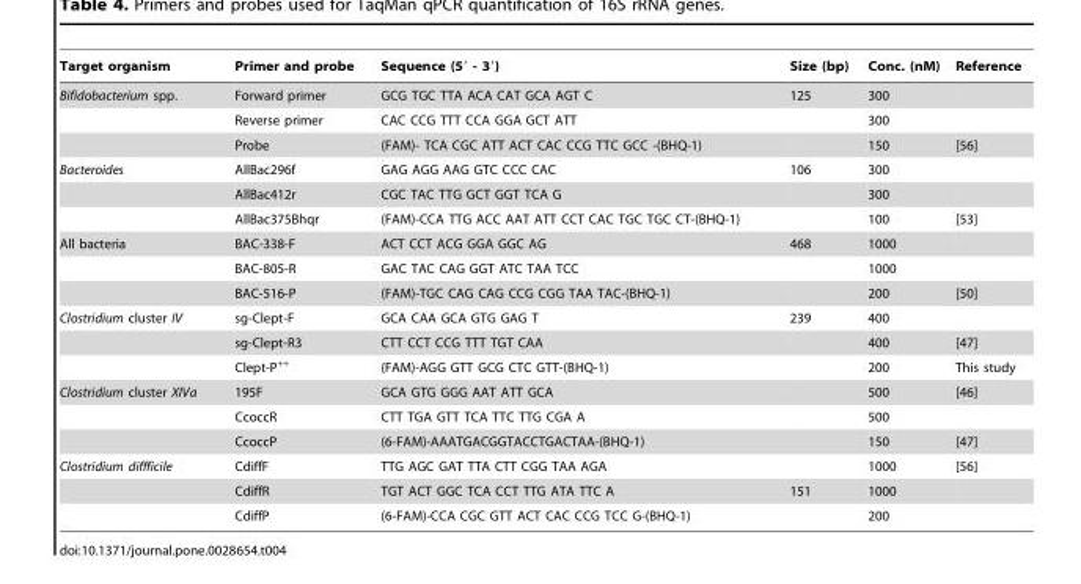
<table><thead><tr><td>Target organism</td><td>Primer and probe</td><td>Sequence (5′ - 3′)</td><td>Size (bp)</td><td>Conc. (nM)</td><td>Reference</td></tr></thead><tbody><tr><td rowspan="3">Bifidobacterium spp.</td><td>Forward primer</td><td>GCG TGC TTA ACA CAT GCA AGT C</td><td>125</td><td>300</td><td></td></tr><tr><td>Reverse primer</td><td>CAC CCG TTT CCA GGA GCT ATT</td><td></td><td>300</td><td></td></tr><tr><td>Probe</td><td>(FAM)- TCA CGC ATT ACT CAC CCG TTC GCC -(BHQ-1)</td><td></td><td>150</td><td>[56]</td></tr><tr><td rowspan="3">Bacteroides</td><td>AllBac296f</td><td>GAG AGG AAG GTC CCC CAC</td><td>106</td><td>300</td><td></td></tr><tr><td>AllBac412r</td><td>CGC TAC TTG GCT GGT TCA G</td><td></td><td>300</td><td></td></tr><tr><td>AllBac375Bhqr</td><td>(FAM)-CCA TTG ACC AAT ATT CCT CAC TGC TGC CT-(BHQ-1)</td><td></td><td>100</td><td>[53]</td></tr><tr><td rowspan="3">All bacteria</td><td>BAC-338-F</td><td>ACT CCT ACG GGA GGC AG</td><td>468</td><td>1000</td><td></td></tr><tr><td>BAC-805-R</td><td>GAC TAC CAG GGT ATC TAA TCC</td><td></td><td>1000</td><td></td></tr><tr><td>BAC-516-P</td><td>(FAM)-TGC CAG CAG CCG CGG TAA TAC-(BHQ-1)</td><td></td><td>200</td><td>[50]</td></tr><tr><td rowspan="3">Clostridium cluster IV</td><td>sg-Clept-F</td><td>GCA CAA GCA GTG GAG T</td><td>239</td><td>400</td><td></td></tr><tr><td>sg-Clept-R3</td><td>CTT CCT CCG TTT TGT CAA</td><td></td><td>400</td><td>[47]</td></tr><tr><td>Clept-P<sup>++</sup></td><td>(FAM)-AGG GTT GCG CTC GTT-(BHQ-1)</td><td></td><td>200</td><td>This study</td></tr><tr><td rowspan="3">Clostridium cluster XIVa</td><td>195F</td><td>GCA GTG GGG AAT ATT GCA</td><td></td><td>500</td><td>[46]</td></tr><tr><td>CcoccR</td><td>CTT TGA GTT TCA TTC TTG CGA A</td><td></td><td>500</td><td></td></tr><tr><td>CcoccP</td><td>(6-FAM)-AAATGACGGTACCTGACTAA-(BHQ-1)</td><td></td><td>150</td><td>[47]</td></tr><tr><td rowspan="3">Clostridium diffficile</td><td>CdiffF</td><td>TTG AGC GAT TTA CTT CGG TAA AGA</td><td></td><td>1000</td><td>[56]</td></tr><tr><td>CdiffR</td><td>TGT ACT GGC TCA CCT TTG ATA TTC A</td><td>151</td><td>1000</td><td></td></tr><tr><td>CdiffP</td><td>(6-FAM)-CCA CGC GTT ACT CAC CCG TCC G-(BHQ-1)</td><td></td><td>200</td><td></td></tr></tbody></table>